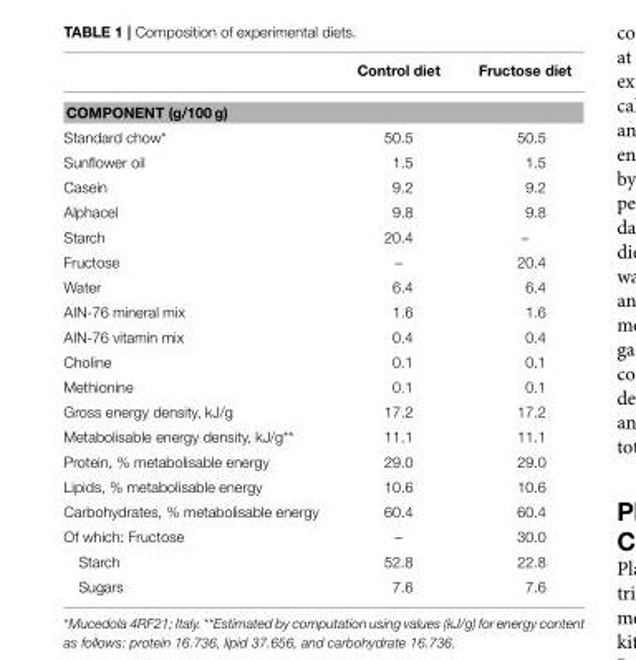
<table><thead><tr><td></td><td>Control diet</td><td>Fructose diet</td></tr></thead><tbody><tr><td colspan="3">COMPONENT (g/100 g)</td></tr><tr><td>Standard chow*</td><td>50.5</td><td>50.5</td></tr><tr><td>Sunflower oil</td><td>1.5</td><td>1.5</td></tr><tr><td>Casein</td><td>9.2</td><td>9.2</td></tr><tr><td>Alphacel</td><td>9.8</td><td>9.8</td></tr><tr><td>Starch</td><td>20.4</td><td>–</td></tr><tr><td>Fructose</td><td>–</td><td>20.4</td></tr><tr><td>Water</td><td>6.4</td><td>6.4</td></tr><tr><td>AIN-76 mineral mix</td><td>1.6</td><td>1.6</td></tr><tr><td>AIN-76 vitamin mix</td><td>0.4</td><td>0.4</td></tr><tr><td>Choline</td><td>0.1</td><td>0.1</td></tr><tr><td>Methionine</td><td>0.1</td><td>0.1</td></tr><tr><td>Gross energy density, kJ/g</td><td>17.2</td><td>17.2</td></tr><tr><td>Metabolisable energy density, kJ/g**</td><td>11.1</td><td>11.1</td></tr><tr><td>Protein, % metabolisable energy</td><td>29.0</td><td>29.0</td></tr><tr><td>Lipids, % metabolisable energy</td><td>10.6</td><td>10.6</td></tr><tr><td>Carbohydrates, % metabolisable energy</td><td>60.4</td><td>60.4</td></tr><tr><td>Of which: Fructose</td><td>–</td><td>30.0</td></tr><tr><td>Starch</td><td>52.8</td><td>22.8</td></tr><tr><td>Sugars</td><td>7.6</td><td>7.6</td></tr></tbody></table>